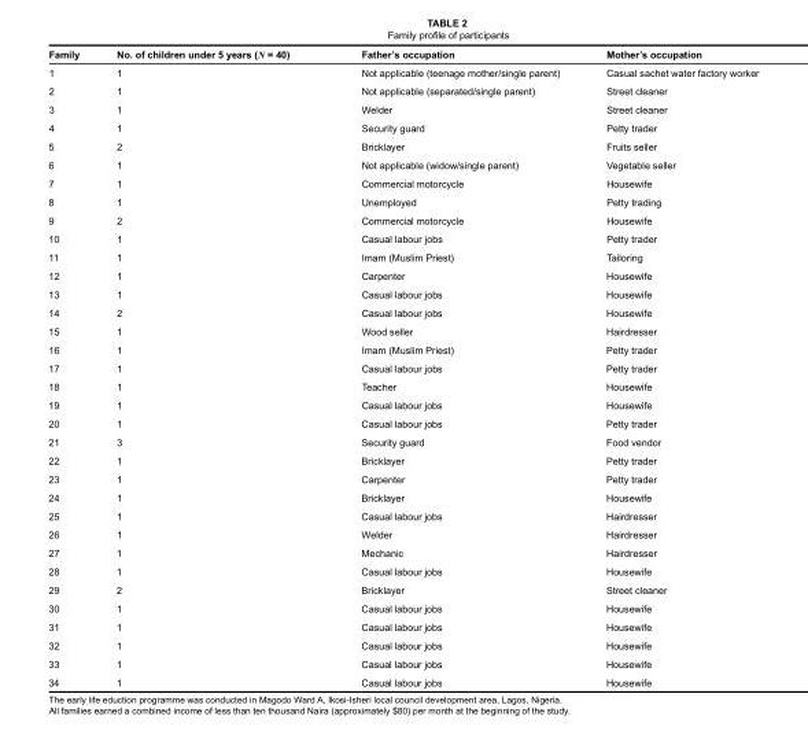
<table><thead><tr><td>Family</td><td>No. of children under 5 years (N = 40)</td><td>Father’s occupation</td><td>Mother’s occupation</td></tr></thead><tbody><tr><td>1</td><td>1</td><td>Not applicable (teenage mother/single parent)</td><td>Casual sachet water factory worker</td></tr><tr><td>2</td><td>1</td><td>Not applicable (separated/single parent)</td><td>Street cleaner</td></tr><tr><td>3</td><td>1</td><td>Welder</td><td>Street cleaner</td></tr><tr><td>4</td><td>1</td><td>Security guard</td><td>Petty trader</td></tr><tr><td>5</td><td>2</td><td>Bricklayer</td><td>Fruits seller</td></tr><tr><td>6</td><td>1</td><td>Not applicable (widow/single parent)</td><td>Vegetable seller</td></tr><tr><td>7</td><td>1</td><td>Commercial motorcycle</td><td>Housewife</td></tr><tr><td>8</td><td>1</td><td>Unemployed</td><td>Petty trading</td></tr><tr><td>9</td><td>2</td><td>Commercial motorcycle</td><td>Housewife</td></tr><tr><td>10</td><td>1</td><td>Casual labour jobs</td><td>Petty trader</td></tr><tr><td>11</td><td>1</td><td>Imam (Muslim Priest)</td><td>Tailoring</td></tr><tr><td>12</td><td>1</td><td>Carpenter</td><td>Housewife</td></tr><tr><td>13</td><td>1</td><td>Casual labour jobs</td><td>Housewife</td></tr><tr><td>14</td><td>2</td><td>Casual labour jobs</td><td>Housewife</td></tr><tr><td>15</td><td>1</td><td>Wood seller</td><td>Hairdresser</td></tr><tr><td>16</td><td>1</td><td>Imam (Muslim Priest)</td><td>Petty trader</td></tr><tr><td>17</td><td>1</td><td>Casual labour jobs</td><td>Petty trader</td></tr><tr><td>18</td><td>1</td><td>Teacher</td><td>Housewife</td></tr><tr><td>19</td><td>1</td><td>Casual labour jobs</td><td>Housewife</td></tr><tr><td>20</td><td>1</td><td>Casual labour jobs</td><td>Petty trader</td></tr><tr><td>21</td><td>3</td><td>Security guard</td><td>Food vendor</td></tr><tr><td>22</td><td>1</td><td>Bricklayer</td><td>Petty trader</td></tr><tr><td>23</td><td>1</td><td>Carpenter</td><td>Petty trader</td></tr><tr><td>24</td><td>1</td><td>Bricklayer</td><td>Housewife</td></tr><tr><td>25</td><td>1</td><td>Casual labour jobs</td><td>Hairdresser</td></tr><tr><td>26</td><td>1</td><td>Welder</td><td>Hairdresser</td></tr><tr><td>27</td><td>1</td><td>Mechanic</td><td>Hairdresser</td></tr><tr><td>28</td><td>1</td><td>Casual labour jobs</td><td>Housewife</td></tr><tr><td>29</td><td>2</td><td>Bricklayer</td><td>Street cleaner</td></tr><tr><td>30</td><td>1</td><td>Casual labour jobs</td><td>Housewife</td></tr><tr><td>31</td><td>1</td><td>Casual labour jobs</td><td>Housewife</td></tr><tr><td>32</td><td>1</td><td>Casual labour jobs</td><td>Housewife</td></tr><tr><td>33</td><td>1</td><td>Casual labour jobs</td><td>Housewife</td></tr><tr><td>34</td><td>1</td><td>Casual labour jobs</td><td>Housewife</td></tr></tbody></table>